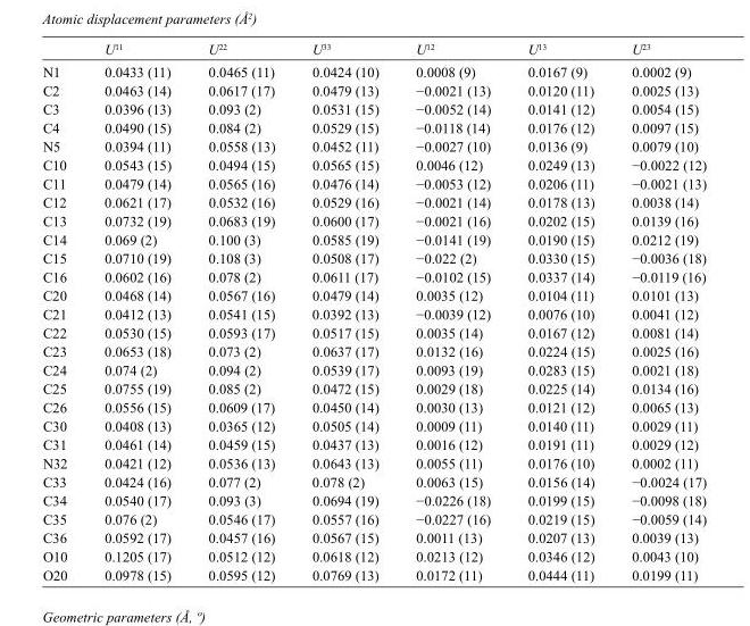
<table><thead><tr><td></td><td>U<sup>11</sup></td><td>U<sup>22</sup></td><td>U<sup>33</sup></td><td>U<sup>12</sup></td><td>U<sup>13</sup></td><td>U<sup>23</sup></td></tr></thead><tbody><tr><td>N1</td><td>0.0433 (11)</td><td>0.0465 (11)</td><td>0.0424 (10)</td><td>0.0008 (9)</td><td>0.0167 (9)</td><td>0.0002 (9)</td></tr><tr><td>C2</td><td>0.0463 (14)</td><td>0.0617 (17)</td><td>0.0479 (13)</td><td>−0.0021 (13)</td><td>0.0120 (11)</td><td>0.0025 (13)</td></tr><tr><td>C3</td><td>0.0396 (13)</td><td>0.093 (2)</td><td>0.0531 (15)</td><td>−0.0052 (14)</td><td>0.0141 (12)</td><td>0.0054 (15)</td></tr><tr><td>C4</td><td>0.0490 (15)</td><td>0.084 (2)</td><td>0.0529 (15)</td><td>−0.0118 (14)</td><td>0.0176 (12)</td><td>0.0097 (15)</td></tr><tr><td>N5</td><td>0.0394 (11)</td><td>0.0558 (13)</td><td>0.0452 (11)</td><td>−0.0027 (10)</td><td>0.0136 (9)</td><td>0.0079 (10)</td></tr><tr><td>C10</td><td>0.0543 (15)</td><td>0.0494 (15)</td><td>0.0565 (15)</td><td>0.0046 (12)</td><td>0.0249 (13)</td><td>−0.0022 (12)</td></tr><tr><td>C11</td><td>0.0479 (14)</td><td>0.0565 (16)</td><td>0.0476 (14)</td><td>−0.0053 (12)</td><td>0.0206 (11)</td><td>−0.0021 (13)</td></tr><tr><td>C12</td><td>0.0621 (17)</td><td>0.0532 (16)</td><td>0.0529 (16)</td><td>−0.0021 (14)</td><td>0.0178 (13)</td><td>0.0038 (14)</td></tr><tr><td>C13</td><td>0.0732 (19)</td><td>0.0683 (19)</td><td>0.0600 (17)</td><td>−0.0021 (16)</td><td>0.0202 (15)</td><td>0.0139 (16)</td></tr><tr><td>C14</td><td>0.069 (2)</td><td>0.100 (3)</td><td>0.0585 (19)</td><td>−0.0141 (19)</td><td>0.0190 (15)</td><td>0.0212 (19)</td></tr><tr><td>C15</td><td>0.0710 (19)</td><td>0.108 (3)</td><td>0.0508 (17)</td><td>−0.022 (2)</td><td>0.0330 (15)</td><td>−0.0036 (18)</td></tr><tr><td>C16</td><td>0.0602 (16)</td><td>0.078 (2)</td><td>0.0611 (17)</td><td>−0.0102 (15)</td><td>0.0337 (14)</td><td>−0.0119 (16)</td></tr><tr><td>C20</td><td>0.0468 (14)</td><td>0.0567 (16)</td><td>0.0479 (14)</td><td>0.0035 (12)</td><td>0.0104 (11)</td><td>0.0101 (13)</td></tr><tr><td>C21</td><td>0.0412 (13)</td><td>0.0541 (15)</td><td>0.0392 (13)</td><td>−0.0039 (12)</td><td>0.0076 (10)</td><td>0.0041 (12)</td></tr><tr><td>C22</td><td>0.0530 (15)</td><td>0.0593 (17)</td><td>0.0517 (15)</td><td>0.0035 (14)</td><td>0.0167 (12)</td><td>0.0081 (14)</td></tr><tr><td>C23</td><td>0.0653 (18)</td><td>0.073 (2)</td><td>0.0637 (17)</td><td>0.0132 (16)</td><td>0.0224 (15)</td><td>0.0025 (16)</td></tr><tr><td>C24</td><td>0.074 (2)</td><td>0.094 (2)</td><td>0.0539 (17)</td><td>0.0093 (19)</td><td>0.0283 (15)</td><td>0.0021 (18)</td></tr><tr><td>C25</td><td>0.0755 (19)</td><td>0.085 (2)</td><td>0.0472 (15)</td><td>0.0029 (18)</td><td>0.0225 (14)</td><td>0.0134 (16)</td></tr><tr><td>C26</td><td>0.0556 (15)</td><td>0.0609 (17)</td><td>0.0450 (14)</td><td>0.0030 (13)</td><td>0.0121 (12)</td><td>0.0065 (13)</td></tr><tr><td>C30</td><td>0.0408 (13)</td><td>0.0365 (12)</td><td>0.0505 (14)</td><td>0.0009 (11)</td><td>0.0140 (11)</td><td>0.0029 (11)</td></tr><tr><td>C31</td><td>0.0461 (14)</td><td>0.0459 (15)</td><td>0.0437 (13)</td><td>0.0016 (12)</td><td>0.0191 (11)</td><td>0.0029 (12)</td></tr><tr><td>N32</td><td>0.0421 (12)</td><td>0.0536 (13)</td><td>0.0643 (13)</td><td>0.0055 (11)</td><td>0.0176 (10)</td><td>0.0002 (11)</td></tr><tr><td>C33</td><td>0.0424 (16)</td><td>0.077 (2)</td><td>0.078 (2)</td><td>0.0063 (15)</td><td>0.0156 (14)</td><td>−0.0024 (17)</td></tr><tr><td>C34</td><td>0.0540 (17)</td><td>0.093 (3)</td><td>0.0694 (19)</td><td>−0.0226 (18)</td><td>0.0199 (15)</td><td>−0.0098 (18)</td></tr><tr><td>C35</td><td>0.076 (2)</td><td>0.0546 (17)</td><td>0.0557 (16)</td><td>−0.0227 (16)</td><td>0.0219 (15)</td><td>−0.0059 (14)</td></tr><tr><td>C36</td><td>0.0592 (17)</td><td>0.0457 (16)</td><td>0.0567 (15)</td><td>0.0011 (13)</td><td>0.0207 (13)</td><td>0.0039 (13)</td></tr><tr><td>O10</td><td>0.1205 (17)</td><td>0.0512 (12)</td><td>0.0618 (12)</td><td>0.0213 (12)</td><td>0.0346 (12)</td><td>0.0043 (10)</td></tr><tr><td>O20</td><td>0.0978 (15)</td><td>0.0595 (12)</td><td>0.0769 (13)</td><td>0.0172 (11)</td><td>0.0444 (11)</td><td>0.0199 (11)</td></tr></tbody></table>